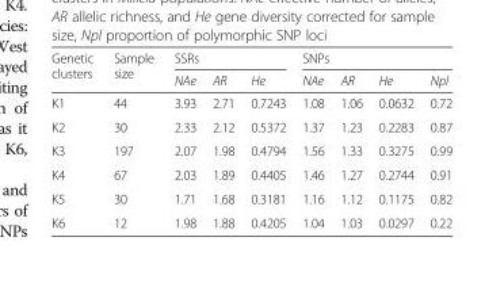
<table><thead><tr><td rowspan="2">Genetic clusters</td><td rowspan="2">Sample size</td><td colspan="3">SSRs</td><td colspan="4">SNPs</td></tr><tr><td>NAe</td><td>AR</td><td>He</td><td>NAe</td><td>AR</td><td>He</td><td>Npl</td></tr></thead><tbody><tr><td>K1</td><td>44</td><td>3.93</td><td>2.71</td><td>0.7243</td><td>1.08</td><td>1.06</td><td>0.0632</td><td>0.72</td></tr><tr><td>K2</td><td>30</td><td>2.33</td><td>2.12</td><td>0.5372</td><td>1.37</td><td>1.23</td><td>0.2283</td><td>0.87</td></tr><tr><td>K3</td><td>197</td><td>2.07</td><td>1.98</td><td>0.4794</td><td>1.56</td><td>1.33</td><td>0.3275</td><td>0.99</td></tr><tr><td>K4</td><td>67</td><td>2.03</td><td>1.89</td><td>0.4405</td><td>1.46</td><td>1.27</td><td>0.2744</td><td>0.91</td></tr><tr><td>K5</td><td>30</td><td>1.71</td><td>1.68</td><td>0.3181</td><td>1.16</td><td>1.12</td><td>0.1175</td><td>0.82</td></tr><tr><td>K6</td><td>12</td><td>1.98</td><td>1.88</td><td>0.4205</td><td>1.04</td><td>1.03</td><td>0.0297</td><td>0.22</td></tr></tbody></table>